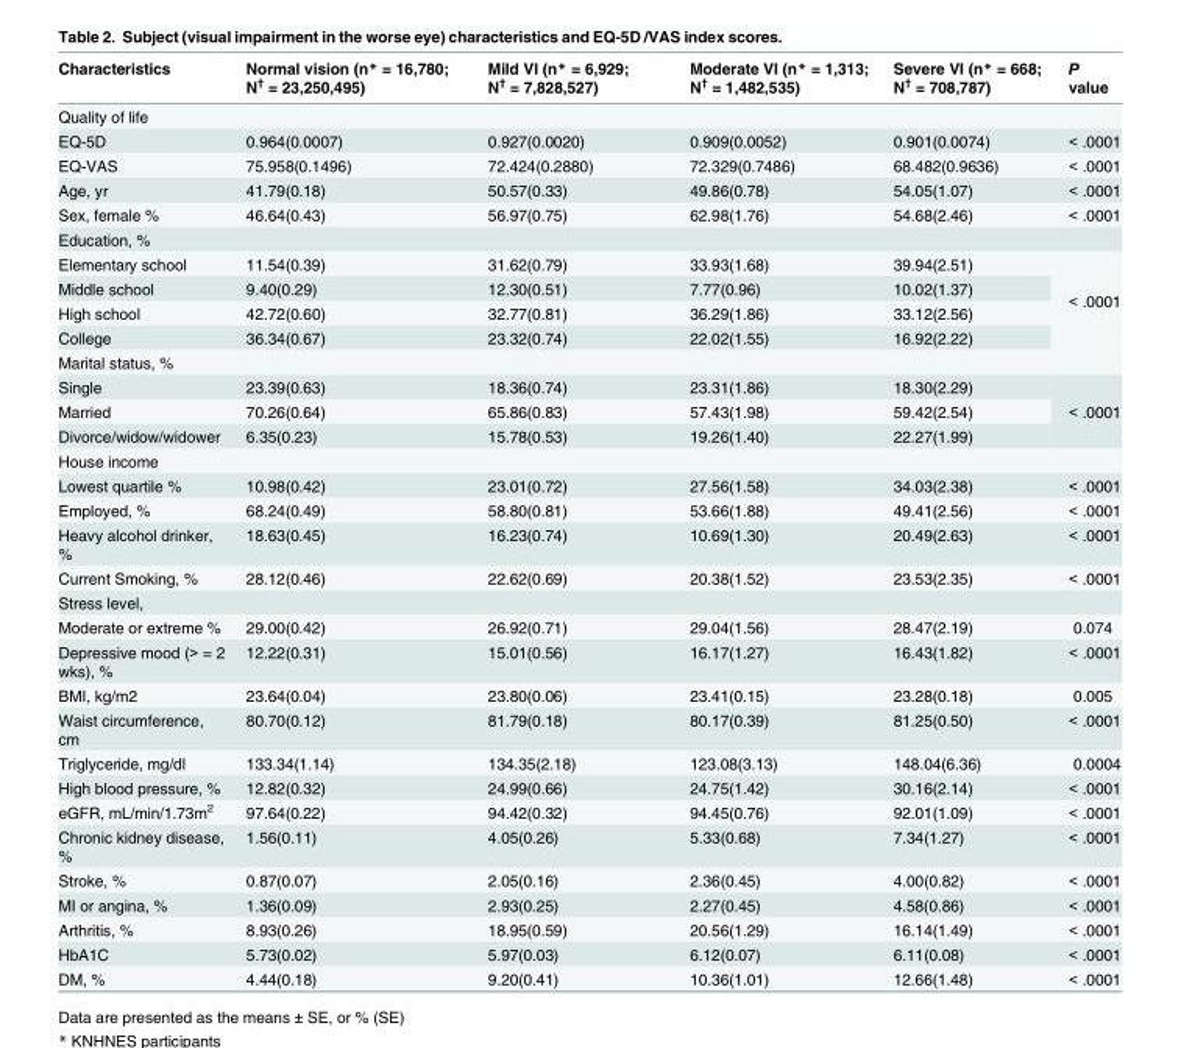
<table><thead><tr><td>Characteristics</td><td>Normal vision (n* = 16,780; N<sup>†</sup> = 23,250,495)</td><td>Mild VI (n* = 6,929; N<sup>†</sup> = 7,828,527)</td><td>Moderate VI (n* = 1,313; N<sup>†</sup> = 1,482,535)</td><td>Severe VI (n* = 668; N<sup>†</sup> = 708,787)</td><td>P value</td></tr></thead><tbody><tr><td colspan="6">Quality of life</td></tr><tr><td>EQ-5D</td><td>0.964(0.0007)</td><td>0.927(0.0020)</td><td>0.909(0.0052)</td><td>0.901(0.0074)</td><td>&lt; .0001</td></tr><tr><td>EQ-VAS</td><td>75.958(0.1496)</td><td>72.424(0.2880)</td><td>72.329(0.7486)</td><td>68.482(0.9636)</td><td>&lt; .0001</td></tr><tr><td>Age, yr</td><td>41.79(0.18)</td><td>50.57(0.33)</td><td>49.86(0.78)</td><td>54.05(1.07)</td><td>&lt; .0001</td></tr><tr><td>Sex, female %</td><td>46.64(0.43)</td><td>56.97(0.75)</td><td>62.98(1.76)</td><td>54.68(2.46)</td><td>&lt; .0001</td></tr><tr><td colspan="6">Education, %</td></tr><tr><td>Elementary school</td><td>11.54(0.39)</td><td>31.62(0.79)</td><td>33.93(1.68)</td><td>39.94(2.51)</td><td rowspan="4">&lt; .0001</td></tr><tr><td>Middle school</td><td>9.40(0.29)</td><td>12.30(0.51)</td><td>7.77(0.96)</td><td>10.02(1.37)</td></tr><tr><td>High school</td><td>42.72(0.60)</td><td>32.77(0.81)</td><td>36.29(1.86)</td><td>33.12(2.56)</td></tr><tr><td>College</td><td>36.34(0.67)</td><td>23.32(0.74)</td><td>22.02(1.55)</td><td>16.92(2.22)</td></tr><tr><td colspan="6">Marital status, %</td></tr><tr><td>Single</td><td>23.39(0.63)</td><td>18.36(0.74)</td><td>23.31(1.86)</td><td>18.30(2.29)</td><td rowspan="3">&lt; .0001</td></tr><tr><td>Married</td><td>70.26(0.64)</td><td>65.86(0.83)</td><td>57.43(1.98)</td><td>59.42(2.54)</td></tr><tr><td>Divorce/widow/widower</td><td>6.35(0.23)</td><td>15.78(0.53)</td><td>19.26(1.40)</td><td>22.27(1.99)</td></tr><tr><td colspan="6">House income</td></tr><tr><td>Lowest quartile %</td><td>10.98(0.42)</td><td>23.01(0.72)</td><td>27.56(1.58)</td><td>34.03(2.38)</td><td>&lt; .0001</td></tr><tr><td>Employed, %</td><td>68.24(0.49)</td><td>58.80(0.81)</td><td>53.66(1.88)</td><td>49.41(2.56)</td><td>&lt; .0001</td></tr><tr><td>Heavy alcohol drinker, %</td><td>18.63(0.45)</td><td>16.23(0.74)</td><td>10.69(1.30)</td><td>20.49(2.63)</td><td>&lt; .0001</td></tr><tr><td>Current Smoking, %</td><td>28.12(0.46)</td><td>22.62(0.69)</td><td>20.38(1.52)</td><td>23.53(2.35)</td><td>&lt; .0001</td></tr><tr><td colspan="6">Stress level,</td></tr><tr><td>Moderate or extreme %</td><td>29.00(0.42)</td><td>26.92(0.71)</td><td>29.04(1.56)</td><td>28.47(2.19)</td><td>0.074</td></tr><tr><td>Depressive mood (&gt; = 2 wks), %</td><td>12.22(0.31)</td><td>15.01(0.56)</td><td>16.17(1.27)</td><td>16.43(1.82)</td><td>&lt; .0001</td></tr><tr><td>BMI, kg/m2</td><td>23.64(0.04)</td><td>23.80(0.06)</td><td>23.41(0.15)</td><td>23.28(0.18)</td><td>0.005</td></tr><tr><td>Waist circumference, cm</td><td>80.70(0.12)</td><td>81.79(0.18)</td><td>80.17(0.39)</td><td>81.25(0.50)</td><td>&lt; .0001</td></tr><tr><td>Triglyceride, mg/dl</td><td>133.34(1.14)</td><td>134.35(2.18)</td><td>123.08(3.13)</td><td>148.04(6.36)</td><td>0.0004</td></tr><tr><td>High blood pressure, %</td><td>12.82(0.32)</td><td>24.99(0.66)</td><td>24.75(1.42)</td><td>30.16(2.14)</td><td>&lt; .0001</td></tr><tr><td>eGFR, mL/min/1.73m<sup>2</sup></td><td>97.64(0.22)</td><td>94.42(0.32)</td><td>94.45(0.76)</td><td>92.01(1.09)</td><td>&lt; .0001</td></tr><tr><td>Chronic kidney disease, %</td><td>1.56(0.11)</td><td>4.05(0.26)</td><td>5.33(0.68)</td><td>7.34(1.27)</td><td>&lt; .0001</td></tr><tr><td>Stroke, %</td><td>0.87(0.07)</td><td>2.05(0.16)</td><td>2.36(0.45)</td><td>4.00(0.82)</td><td>&lt; .0001</td></tr><tr><td>MI or angina, %</td><td>1.36(0.09)</td><td>2.93(0.25)</td><td>2.27(0.45)</td><td>4.58(0.86)</td><td>&lt; .0001</td></tr><tr><td>Arthritis, %</td><td>8.93(0.26)</td><td>18.95(0.59)</td><td>20.56(1.29)</td><td>16.14(1.49)</td><td>&lt; .0001</td></tr><tr><td>HbA1C</td><td>5.73(0.02)</td><td>5.97(0.03)</td><td>6.12(0.07)</td><td>6.11(0.08)</td><td>&lt; .0001</td></tr><tr><td>DM, %</td><td>4.44(0.18)</td><td>9.20(0.41)</td><td>10.36(1.01)</td><td>12.66(1.48)</td><td>&lt; .0001</td></tr></tbody></table>